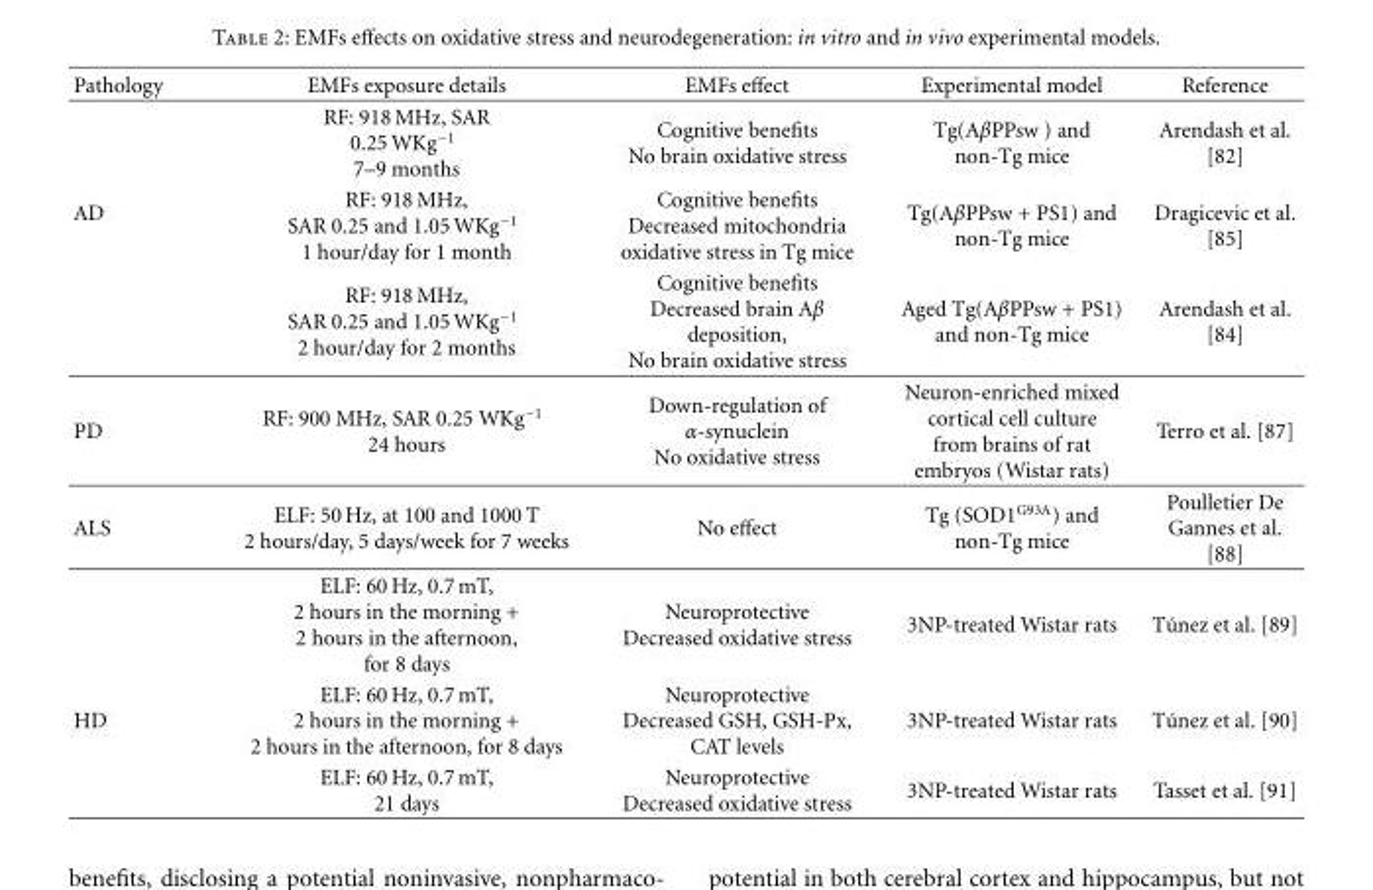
<table><thead><tr><td>Pathology</td><td>EMFs exposure details</td><td>EMFs effect</td><td>Experimental model</td><td>Reference</td></tr></thead><tbody><tr><td></td><td>RF: 918 MHz, SAR 0.25 WKg<sup>−1</sup> 7–9 months</td><td>Cognitive benefits No brain oxidative stress</td><td>Tg(AβPPsw ) and non-Tg mice</td><td>Arendash et al. [82]</td></tr><tr><td rowspan="2">AD</td><td>RF: 918 MHz, SAR 0.25 and 1.05 WKg<sup>−1</sup> 1 hour/day for 1 month</td><td>Cognitive benefits Decreased mitochondria oxidative stress in Tg mice</td><td>Tg(AβPPsw + PS1) and non-Tg mice</td><td>Dragicevic et al. [85]</td></tr><tr><td>RF: 918 MHz, SAR 0.25 and 1.05 WKg<sup>−1</sup> 2 hour/day for 2 months</td><td>Cognitive benefits Decreased brain Aβ deposition, No brain oxidative stress</td><td>Aged Tg(AβPPsw + PS1) and non-Tg mice</td><td>Arendash et al. [84]</td></tr><tr><td>PD</td><td>RF: 900 MHz, SAR 0.25 WKg<sup>−1</sup> 24 hours</td><td>Down-regulation of α-synuclein No oxidative stress</td><td>Neuron-enriched mixed cortical cell culture from brains of rat embryos (Wistar rats)</td><td>Terro et al. [87]</td></tr><tr><td rowspan="2">ALS</td><td>ELF: 50 Hz, at 100 and 1000 T 2 hours/day, 5 days/week for 7 weeks</td><td>No effect</td><td>Tg (SOD1<sup>G93A</sup>) and non-Tg mice</td><td>Poulletier De Gannes et al. [88]</td></tr><tr><td>ELF: 60 Hz, 0.7 mT, 2 hours in the morning + 2 hours in the afternoon, for 8 days</td><td>Neuroprotective Decreased oxidative stress</td><td>3NP-treated Wistar rats</td><td>T´unez et al. [89]</td></tr><tr><td rowspan="2">HD</td><td>ELF: 60 Hz, 0.7 mT, 2 hours in the morning + 2 hours in the afternoon, for 8 days</td><td>Neuroprotective Decreased GSH, GSH-Px, CAT levels</td><td>3NP-treated Wistar rats</td><td>T´unez et al. [90]</td></tr><tr><td>ELF: 60 Hz, 0.7 mT, 21 days</td><td>Neuroprotective Decreased oxidative stress</td><td>3NP-treated Wistar rats</td><td>Tasset et al. [91]</td></tr></tbody></table>